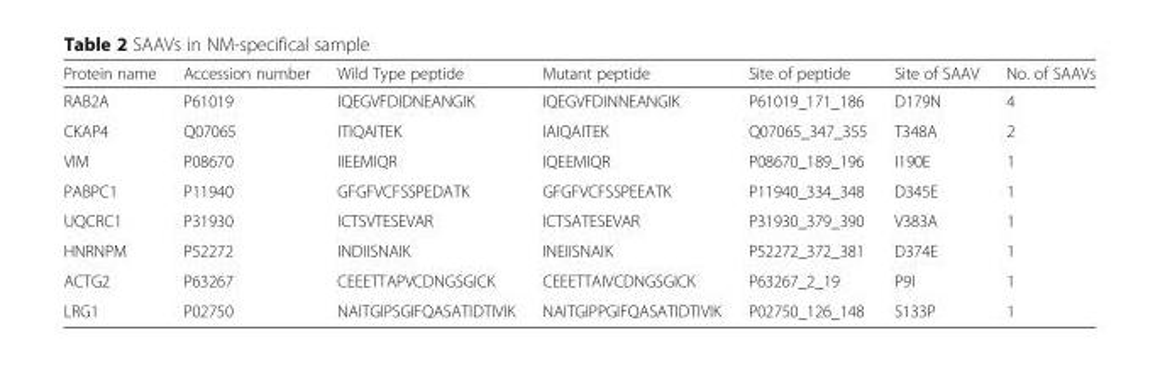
<table><thead><tr><td>Protein name</td><td>Accession number</td><td>Wild Type peptide</td><td>Mutant peptide</td><td>Site of peptide</td><td>Site of SAAV</td><td>No. of SAAVs</td></tr></thead><tbody><tr><td>RAB2A</td><td>P61019</td><td>IQEGVFDIDNEANGIK</td><td>IQEGVFDINNEANGIK</td><td>P61019_171_186</td><td>D179N</td><td>4</td></tr><tr><td>CKAP4</td><td>Q07065</td><td>ITIQAITEK</td><td>IAIQAITEK</td><td>Q07065_347_355</td><td>T348A</td><td>2</td></tr><tr><td>VIM</td><td>P08670</td><td>IIEEMIQR</td><td>IQEEMIQR</td><td>P08670_189_196</td><td>I190E</td><td>1</td></tr><tr><td>PABPC1</td><td>P11940</td><td>GFGFVCFSSPEDATK</td><td>GFGFVCFSSPEEATK</td><td>P11940_334_348</td><td>D345E</td><td>1</td></tr><tr><td>UQCRC1</td><td>P31930</td><td>ICTSVTESEVAR</td><td>ICTSATESEVAR</td><td>P31930_379_390</td><td>V383A</td><td>1</td></tr><tr><td>HNRNPM</td><td>P52272</td><td>INDIISNAIK</td><td>INEIISNAIK</td><td>P52272_372_381</td><td>D374E</td><td>1</td></tr><tr><td>ACTG2</td><td>P63267</td><td>CEEETTAPVCDNGSGICK</td><td>CEEETTAIVCDNGSGICK</td><td>P63267_2_19</td><td>P9I</td><td>1</td></tr><tr><td>LRG1</td><td>P02750</td><td>NAITGIPSGIFQASATIDTIVIK</td><td>NAITGIPPGIFQASATIDTIVIK</td><td>P02750_126_148</td><td>S133P</td><td>1</td></tr></tbody></table>